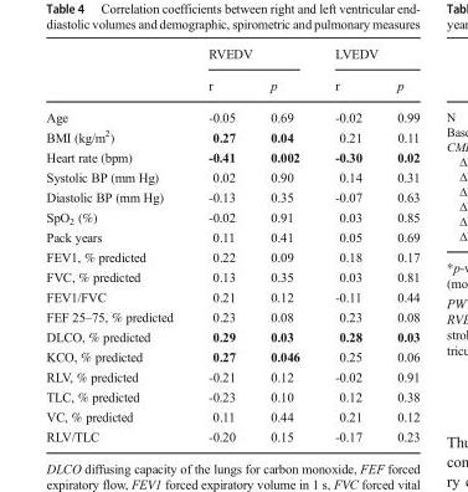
<table><thead><tr><td rowspan="2"></td><td colspan="2">RVEDV</td><td colspan="2">LVEDV</td></tr><tr><td>r</td><td>p</td><td>r</td><td>p</td></tr></thead><tbody><tr><td>Age</td><td>-0.05</td><td>0.69</td><td>-0.02</td><td>0.99</td></tr><tr><td>BMI (kg/m<sup>2</sup>)</td><td>0.27</td><td>0.04</td><td>0.21</td><td>0.11</td></tr><tr><td>Heart rate (bpm)</td><td>-0.41</td><td>0.002</td><td>-0.30</td><td>0.02</td></tr><tr><td>Systolic BP (mm Hg)</td><td>0.02</td><td>0.90</td><td>0.14</td><td>0.31</td></tr><tr><td>Diastolic BP (mm Hg)</td><td>-0.13</td><td>0.35</td><td>-0.07</td><td>0.63</td></tr><tr><td>SpO<sub>2</sub> (%)</td><td>-0.02</td><td>0.91</td><td>0.03</td><td>0.85</td></tr><tr><td>Pack years</td><td>0.11</td><td>0.41</td><td>0.05</td><td>0.69</td></tr><tr><td>FEV1, % predicted</td><td>0.22</td><td>0.09</td><td>0.18</td><td>0.17</td></tr><tr><td>FVC, % predicted</td><td>0.13</td><td>0.35</td><td>0.03</td><td>0.81</td></tr><tr><td>FEV1/FVC</td><td>0.21</td><td>0.12</td><td>-0.11</td><td>0.44</td></tr><tr><td>FEF 25–75, % predicted</td><td>0.23</td><td>0.08</td><td>0.23</td><td>0.08</td></tr><tr><td>DLCO, % predicted</td><td>0.29</td><td>0.03</td><td>0.28</td><td>0.03</td></tr><tr><td>KCO, % predicted</td><td>0.27</td><td>0.046</td><td>0.25</td><td>0.06</td></tr><tr><td>RLV, % predicted</td><td>-0.21</td><td>0.12</td><td>-0.02</td><td>0.91</td></tr><tr><td>TLC, % predicted</td><td>-0.23</td><td>0.10</td><td>0.12</td><td>0.38</td></tr><tr><td>VC, % predicted</td><td>0.11</td><td>0.44</td><td>0.21</td><td>0.12</td></tr><tr><td>RLV/TLC</td><td>-0.20</td><td>0.15</td><td>-0.17</td><td>0.23</td></tr></tbody></table>